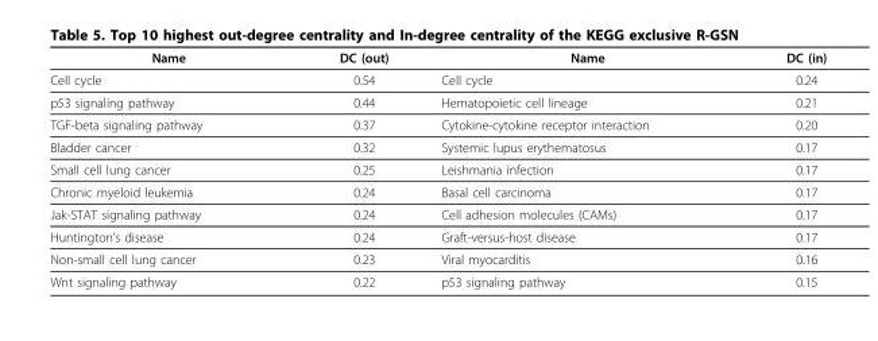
<table><thead><tr><td>Name</td><td>DC (out)</td><td>Name</td><td>DC (in)</td></tr></thead><tbody><tr><td>Cell cycle</td><td>0.54</td><td>Cell cycle</td><td>0.24</td></tr><tr><td>p53 signaling pathway</td><td>0.44</td><td>Hematopoietic cell lineage</td><td>0.21</td></tr><tr><td>TGF-beta signaling pathway</td><td>0.37</td><td>Cytokine-cytokine receptor interaction</td><td>0.20</td></tr><tr><td>Bladder cancer</td><td>0.32</td><td>Systemic lupus erythematosus</td><td>0.17</td></tr><tr><td>Small cell lung cancer</td><td>0.25</td><td>Leishmania infection</td><td>0.17</td></tr><tr><td>Chronic myeloid leukemia</td><td>0.24</td><td>Basal cell carcinoma</td><td>0.17</td></tr><tr><td>Jak-STAT signaling pathway</td><td>0.24</td><td>Cell adhesion molecules (CAMs)</td><td>0.17</td></tr><tr><td>Huntington’s disease</td><td>0.24</td><td>Graft-versus-host disease</td><td>0.17</td></tr><tr><td>Non-small cell lung cancer</td><td>0.23</td><td>Viral myocarditis</td><td>0.16</td></tr><tr><td>Wnt signaling pathway</td><td>0.22</td><td>p53 signaling pathway</td><td>0.15</td></tr></tbody></table>